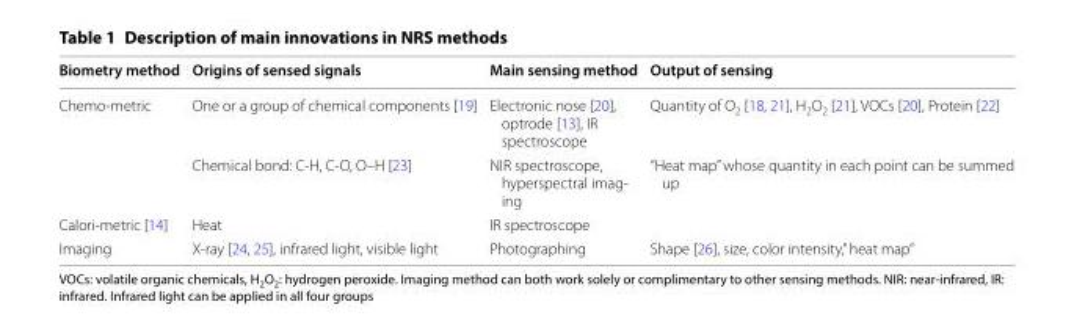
<table><thead><tr><td>Biometry method</td><td>Origins of sensed signals</td><td>Main sensing method</td><td>Output of sensing</td></tr></thead><tbody><tr><td rowspan="2">Chemo‑metric</td><td>One or a group of chemical components [19]</td><td>Electronic nose [20], optrode [13], IR spectroscope</td><td>Quantity of O<sub>2</sub> [18, 21], H<sub>2</sub>O<sub>2</sub> [21], VOCs [20], Protein [22]</td></tr><tr><td>Chemical bond: C‑H, C‑O, O–H [23]</td><td>NIR spectroscope, hyperspectral imag‑ ing</td><td rowspan="2">“Heat map” whose quantity in each point can be summed up</td></tr><tr><td>Calori‑metric [14]</td><td>Heat</td><td>IR spectroscope</td></tr><tr><td>Imaging</td><td>X‑ray [24, 25], infrared light, visible light</td><td>Photographing</td><td>Shape [26], size, color intensity,” heat map”</td></tr></tbody></table>